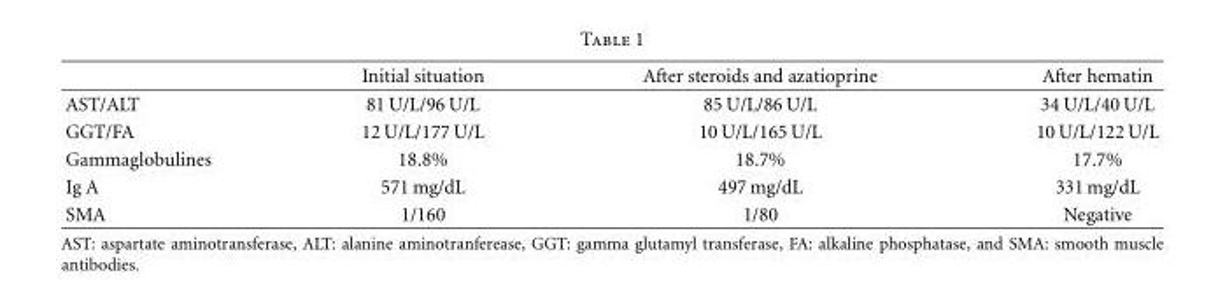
<table><thead><tr><td></td><td>Initial situation</td><td>After steroids and azatioprine</td><td>After hematin</td></tr></thead><tbody><tr><td>AST/ALT</td><td>81 U/L/96 U/L</td><td>85 U/L/86 U/L</td><td>34 U/L/40 U/L</td></tr><tr><td>GGT/FA</td><td>12 U/L/177 U/L</td><td>10 U/L/165 U/L</td><td>10 U/L/122 U/L</td></tr><tr><td>Gammaglobulines</td><td>18.8%</td><td>18.7%</td><td>17.7%</td></tr><tr><td>Ig A</td><td>571 mg/dL</td><td>497 mg/dL</td><td>331 mg/dL</td></tr><tr><td>SMA</td><td>1/160</td><td>1/80</td><td>Negative</td></tr></tbody></table>